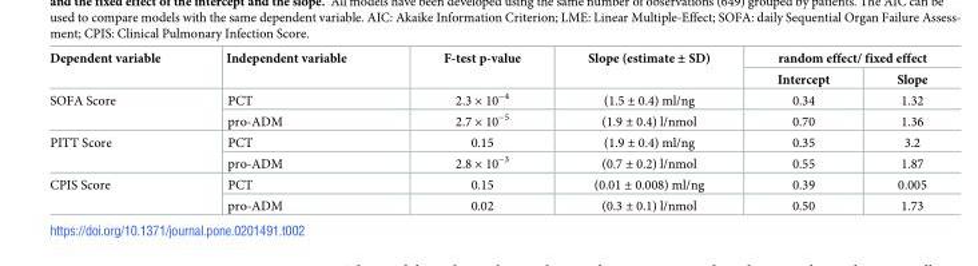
<table><thead><tr><td rowspan="2">Dependent variable</td><td rowspan="2">Independent variable</td><td rowspan="2">F-test p-value</td><td rowspan="2">Slope (estimate ± SD)</td><td colspan="2">random effect/ fixed effect</td></tr><tr><td>Intercept</td><td>Slope</td></tr></thead><tbody><tr><td rowspan="2">SOFA Score</td><td>PCT</td><td>2.3 × 10<sup>−4</sup></td><td>(1.5 ± 0.4) ml/ng</td><td>0.34</td><td>1.32</td></tr><tr><td>pro-ADM</td><td>2.7 × 10<sup>−5</sup></td><td>(1.9 ± 0.4) l/nmol</td><td>0.70</td><td>1.36</td></tr><tr><td rowspan="2">PITT Score</td><td>PCT</td><td>0.15</td><td>(1.9 ± 0.4) ml/ng</td><td>0.35</td><td>3.2</td></tr><tr><td>pro-ADM</td><td>2.8 × 10<sup>−3</sup></td><td>(0.7 ± 0.2) l/nmol</td><td>0.55</td><td>1.87</td></tr><tr><td rowspan="2">CPIS Score</td><td>PCT</td><td>0.15</td><td>(0.01 ± 0.008) ml/ng</td><td>0.39</td><td>0.005</td></tr><tr><td>pro-ADM</td><td>0.02</td><td>(0.3 ± 0.1) l/nmol</td><td>0.50</td><td>1.73</td></tr></tbody></table>